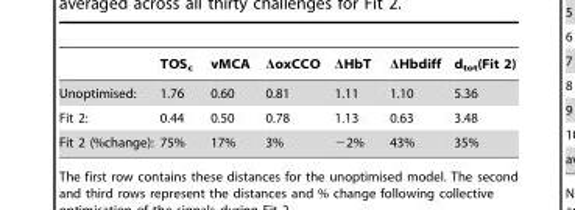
<table><thead><tr><td></td><td>TOS<sub>c</sub></td><td>vMCA</td><td>ΔoxCCO</td><td>ΔHbT</td><td>ΔHbdiff</td><td>d<sub>tot</sub>(Fit 2)</td></tr></thead><tbody><tr><td>Unoptimised:</td><td>1.76</td><td>0.60</td><td>0.81</td><td>1.11</td><td>1.10</td><td>5.36</td></tr><tr><td>Fit 2:</td><td>0.44</td><td>0.50</td><td>0.78</td><td>1.13</td><td>0.63</td><td>3.48</td></tr><tr><td>Fit 2 (%change):</td><td>75%</td><td>17%</td><td>3%</td><td>−2%</td><td>43%</td><td>35%</td></tr></tbody></table>